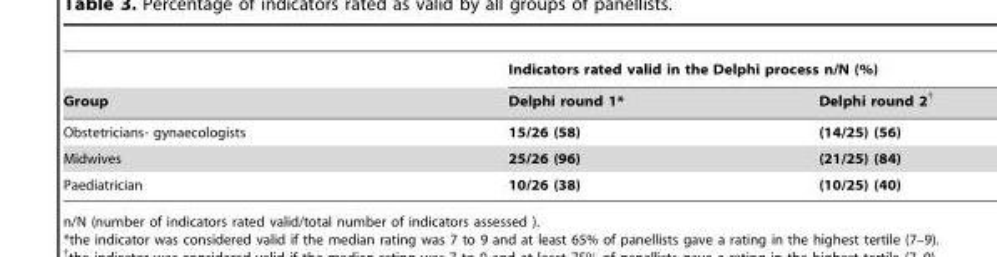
<table><thead><tr><td rowspan="2">Group</td><td colspan="2">Indicators rated valid in the Delphi process n/N (%)</td></tr><tr><td>Delphi round 1*</td><td>Delphi round 2†</td></tr></thead><tbody><tr><td>Obstetricians- gynaecologists</td><td>15/26 (58)</td><td>(14/25) (56)</td></tr><tr><td>Midwives</td><td>25/26 (96)</td><td>(21/25) (84)</td></tr><tr><td>Paediatrician</td><td>10/26 (38)</td><td>(10/25) (40)</td></tr></tbody></table>